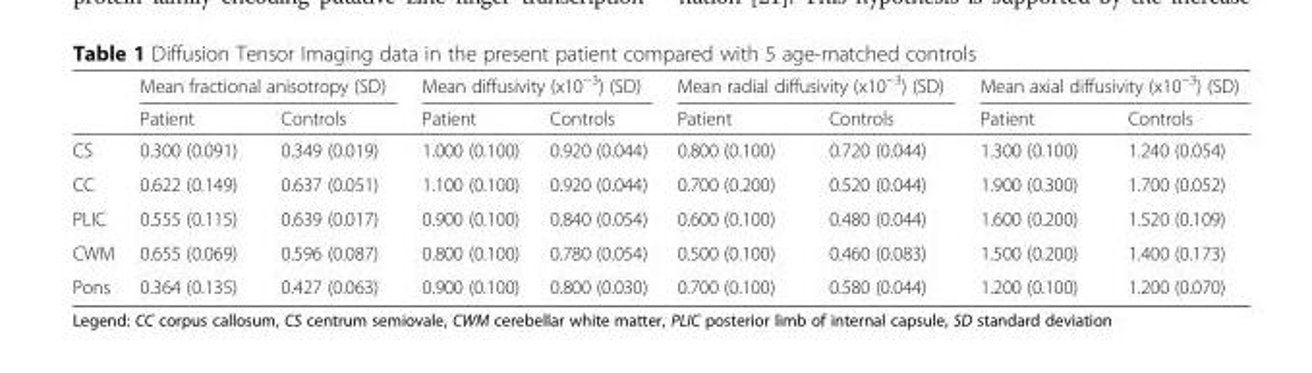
<table><thead><tr><td rowspan="2"></td><td colspan="2">Mean fractional anisotropy (SD)</td><td colspan="2">Mean diffusivity (x10<sup>−3</sup>) (SD)</td><td colspan="2">Mean radial diffusivity (x10<sup>−3</sup>) (SD)</td><td colspan="2">Mean axial diffusivity (x10<sup>−3</sup>) (SD)</td></tr><tr><td>Patient</td><td>Controls</td><td>Patient</td><td>Controls</td><td>Patient</td><td>Controls</td><td>Patient</td><td>Controls</td></tr></thead><tbody><tr><td>CS</td><td>0.300 (0.091)</td><td>0.349 (0.019)</td><td>1.000 (0.100)</td><td>0.920 (0.044)</td><td>0.800 (0.100)</td><td>0.720 (0.044)</td><td>1.300 (0.100)</td><td>1.240 (0.054)</td></tr><tr><td>CC</td><td>0.622 (0.149)</td><td>0.637 (0.051)</td><td>1.100 (0.100)</td><td>0.920 (0.044)</td><td>0.700 (0.200)</td><td>0.520 (0.044)</td><td>1.900 (0.300)</td><td>1.700 (0.052)</td></tr><tr><td>PLIC</td><td>0.555 (0.115)</td><td>0.639 (0.017)</td><td>0.900 (0.100)</td><td>0.840 (0.054)</td><td>0.600 (0.100)</td><td>0.480 (0.044)</td><td>1.600 (0.200)</td><td>1.520 (0.109)</td></tr><tr><td>CWM</td><td>0.655 (0.069)</td><td>0.596 (0.087)</td><td>0.800 (0.100)</td><td>0.780 (0.054)</td><td>0.500 (0.100)</td><td>0.460 (0.083)</td><td>1.500 (0.200)</td><td>1.400 (0.173)</td></tr><tr><td>Pons</td><td>0.364 (0.135)</td><td>0.427 (0.063)</td><td>0.900 (0.100)</td><td>0.800 (0.030)</td><td>0.700 (0.100)</td><td>0.580 (0.044)</td><td>1.200 (0.100)</td><td>1.200 (0.070)</td></tr></tbody></table>